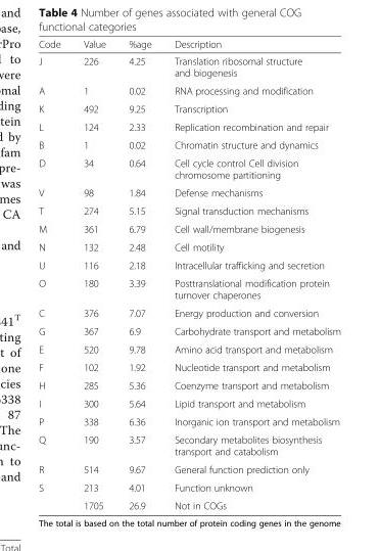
<table><thead><tr><td>Code</td><td>Value</td><td>%age</td><td>Description</td></tr></thead><tbody><tr><td>J</td><td>226</td><td>4.25</td><td>Translation ribosomal structure and biogenesis</td></tr><tr><td>A</td><td>1</td><td>0.02</td><td>RNA processing and modification</td></tr><tr><td>K</td><td>492</td><td>9.25</td><td>Transcription</td></tr><tr><td>L</td><td>124</td><td>2.33</td><td>Replication recombination and repair</td></tr><tr><td>B</td><td>1</td><td>0.02</td><td>Chromatin structure and dynamics</td></tr><tr><td>D</td><td>34</td><td>0.64</td><td>Cell cycle control Cell division chromosome partitioning</td></tr><tr><td>V</td><td>98</td><td>1.84</td><td>Defense mechanisms</td></tr><tr><td>T</td><td>274</td><td>5.15</td><td>Signal transduction mechanisms</td></tr><tr><td>M</td><td>361</td><td>6.79</td><td>Cell wall/membrane biogenesis</td></tr><tr><td>N</td><td>132</td><td>2.48</td><td>Cell motility</td></tr><tr><td>U</td><td>116</td><td>2.18</td><td>Intracellular trafficking and secretion</td></tr><tr><td>O</td><td>180</td><td>3.39</td><td>Posttranslational modification protein turnover chaperones</td></tr><tr><td>C</td><td>376</td><td>7.07</td><td>Energy production and conversion</td></tr><tr><td>G</td><td>367</td><td>6.9</td><td>Carbohydrate transport and metabolism</td></tr><tr><td>E</td><td>520</td><td>9.78</td><td>Amino acid transport and metabolism</td></tr><tr><td>F</td><td>102</td><td>1.92</td><td>Nucleotide transport and metabolism</td></tr><tr><td>H</td><td>285</td><td>5.36</td><td>Coenzyme transport and metabolism</td></tr><tr><td>I</td><td>300</td><td>5.64</td><td>Lipid transport and metabolism</td></tr><tr><td>P</td><td>338</td><td>6.36</td><td>Inorganic ion transport and metabolism</td></tr><tr><td>Q</td><td>190</td><td>3.57</td><td>Secondary metabolites biosynthesis transport and catabolism</td></tr><tr><td>R</td><td>514</td><td>9.67</td><td>General function prediction only</td></tr><tr><td rowspan="2">S</td><td>213</td><td>4.01</td><td>Function unknown</td></tr><tr><td>1705</td><td>26.9</td><td>Not in COGs</td></tr></tbody></table>